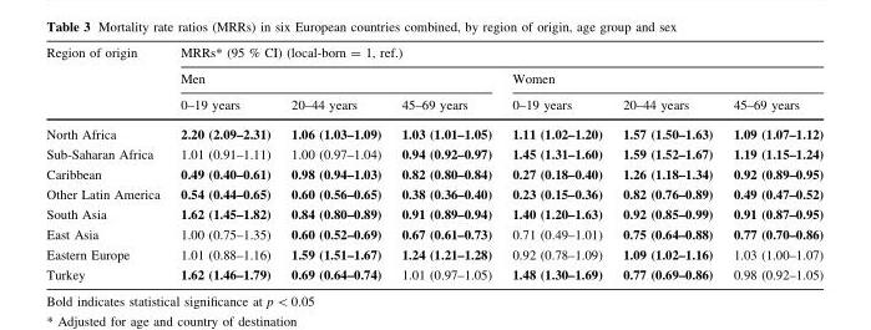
<table><thead><tr><td rowspan="3">Region of origin</td><td colspan="6">MRRs* (95 % CI) (local-born = 1, ref.)</td></tr><tr><td colspan="3">Men</td><td colspan="3">Women</td></tr><tr><td>0–19 years</td><td>20–44 years</td><td>45–69 years</td><td>0–19 years</td><td>20–44 years</td><td>45–69 years</td></tr></thead><tbody><tr><td>North Africa</td><td>2.20 (2.09–2.31)</td><td>1.06 (1.03–1.09)</td><td>1.03 (1.01–1.05)</td><td>1.11 (1.02–1.20)</td><td>1.57 (1.50–1.63)</td><td>1.09 (1.07–1.12)</td></tr><tr><td>Sub-Saharan Africa</td><td>1.01 (0.91–1.11)</td><td>1.00 (0.97–1.04)</td><td>0.94 (0.92–0.97)</td><td>1.45 (1.31–1.60)</td><td>1.59 (1.52–1.67)</td><td>1.19 (1.15–1.24)</td></tr><tr><td>Caribbean</td><td>0.49 (0.40–0.61)</td><td>0.98 (0.94–1.03)</td><td>0.82 (0.80–0.84)</td><td>0.27 (0.18–0.40)</td><td>1.26 (1.18–1.34)</td><td>0.92 (0.89–0.95)</td></tr><tr><td>Other Latin America</td><td>0.54 (0.44–0.65)</td><td>0.60 (0.56–0.65)</td><td>0.38 (0.36–0.40)</td><td>0.23 (0.15–0.36)</td><td>0.82 (0.76–0.89)</td><td>0.49 (0.47–0.52)</td></tr><tr><td>South Asia</td><td>1.62 (1.45–1.82)</td><td>0.84 (0.80–0.89)</td><td>0.91 (0.89–0.94)</td><td>1.40 (1.20–1.63)</td><td>0.92 (0.85–0.99)</td><td>0.91 (0.87–0.95)</td></tr><tr><td>East Asia</td><td>1.00 (0.75–1.35)</td><td>0.60 (0.52–0.69)</td><td>0.67 (0.61–0.73)</td><td>0.71 (0.49–1.01)</td><td>0.75 (0.64–0.88)</td><td>0.77 (0.70–0.86)</td></tr><tr><td>Eastern Europe</td><td>1.01 (0.88–1.16)</td><td>1.59 (1.51–1.67)</td><td>1.24 (1.21–1.28)</td><td>0.92 (0.78–1.09)</td><td>1.09 (1.02–1.16)</td><td>1.03 (1.00–1.07)</td></tr><tr><td>Turkey</td><td>1.62 (1.46–1.79)</td><td>0.69 (0.64–0.74)</td><td>1.01 (0.97–1.05)</td><td>1.48 (1.30–1.69)</td><td>0.77 (0.69–0.86)</td><td>0.98 (0.92–1.05)</td></tr></tbody></table>